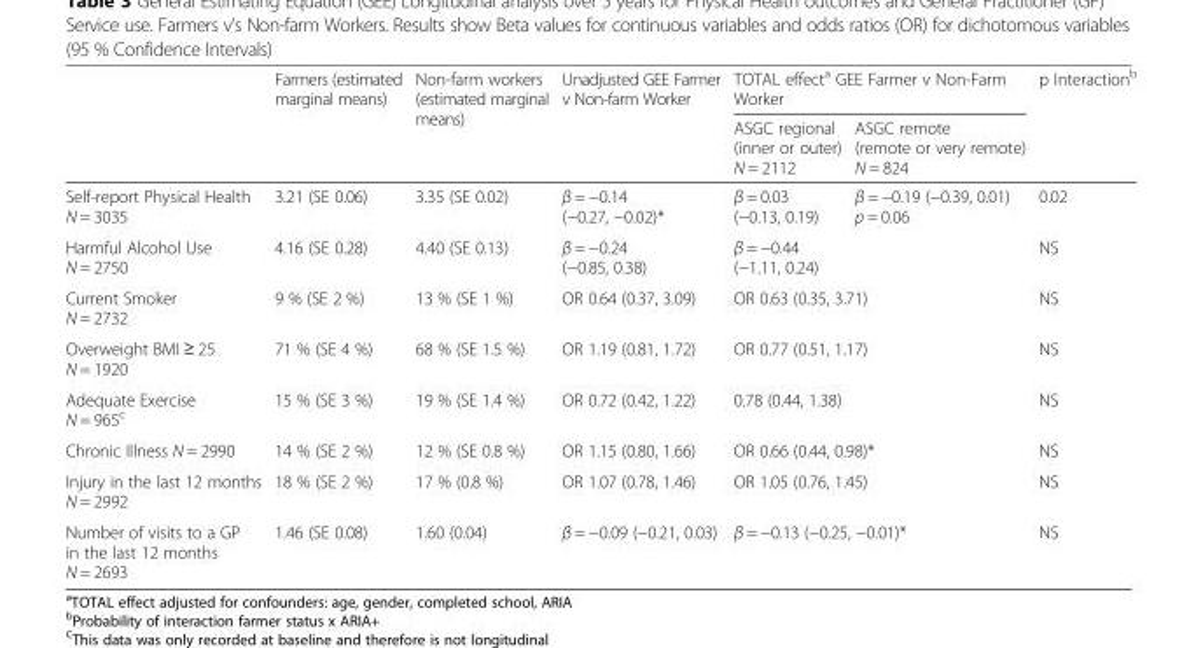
<table><thead><tr><td rowspan="2"></td><td rowspan="2">Farmers (estimated marginal means)</td><td rowspan="2">Non-farm workers (estimated marginal means)</td><td rowspan="2">Unadjusted GEE Farmer v Non-farm Worker</td><td colspan="2">TOTAL effect<sup>a</sup> GEE Farmer v Non-Farm Worker</td><td rowspan="2">p Interaction<sup>b</sup></td></tr><tr><td>ASGC regional (inner or outer) N = 2112</td><td>ASGC remote (remote or very remote) N = 824</td></tr></thead><tbody><tr><td>Self-report Physical Health N = 3035</td><td>3.21 (SE 0.06)</td><td>3.35 (SE 0.02)</td><td>β = −0.14 (−0.27, −0.02)*</td><td>β = 0.03 (−0.13, 0.19)</td><td>β = −0.19 (−0.39, 0.01) p = 0.06</td><td>0.02</td></tr><tr><td>Harmful Alcohol Use N = 2750</td><td>4.16 (SE 0.28)</td><td>4.40 (SE 0.13)</td><td>β = −0.24 (−0.85, 0.38)</td><td colspan="2">β = −0.44 (−1.11, 0.24)</td><td>NS</td></tr><tr><td>Current Smoker N = 2732</td><td>9 % (SE 2 %)</td><td>13 % (SE 1 %)</td><td>OR 0.64 (0.37, 3.09)</td><td colspan="2">OR 0.63 (0.35, 3.71)</td><td>NS</td></tr><tr><td>Overweight BMI ≥ 25 N = 1920</td><td>71 % (SE 4 %)</td><td>68 % (SE 1.5 %)</td><td>OR 1.19 (0.81, 1.72)</td><td colspan="2">OR 0.77 (0.51, 1.17)</td><td>NS</td></tr><tr><td>Adequate Exercise N = 965<sup>c</sup></td><td>15 % (SE 3 %)</td><td>19 % (SE 1.4 %)</td><td>OR 0.72 (0.42, 1.22)</td><td colspan="2">0.78 (0.44, 1.38)</td><td>NS</td></tr><tr><td>Chronic Illness N = 2990</td><td>14 % (SE 2 %)</td><td>12 % (SE 0.8 %)</td><td>OR 1.15 (0.80, 1.66)</td><td colspan="2">OR 0.66 (0.44, 0.98)*</td><td>NS</td></tr><tr><td>Injury in the last 12 months N = 2992</td><td>18 % (SE 2 %)</td><td>17 % (0.8 %)</td><td>OR 1.07 (0.78, 1.46)</td><td colspan="2">OR 1.05 (0.76, 1.45)</td><td>NS</td></tr><tr><td>Number of visits to a GP in the last 12 months N = 2693</td><td>1.46 (SE 0.08)</td><td>1.60 (0.04)</td><td>β = −0.09 (−0.21, 0.03)</td><td colspan="2">β = −0.13 (−0.25, −0.01)*</td><td>NS</td></tr></tbody></table>